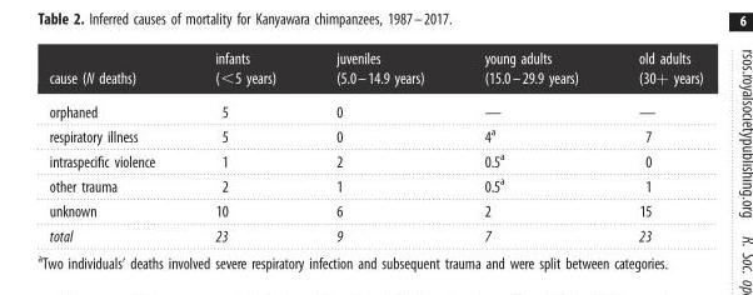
<table><thead><tr><td>cause (N deaths)</td><td>infants (&lt;5 years)</td><td>juveniles (5.0–14.9 years)</td><td>young adults (15.0–29.9 years)</td><td>old adults (30+ years)</td></tr></thead><tbody><tr><td>orphaned</td><td>5</td><td>0</td><td>—</td><td>—</td></tr><tr><td>respiratory illness</td><td>5</td><td>0</td><td>4<sup>a</sup></td><td>7</td></tr><tr><td>intraspecific violence</td><td>1</td><td>2</td><td>0.5<sup>a</sup></td><td>0</td></tr><tr><td>other trauma</td><td>2</td><td>1</td><td>0.5<sup>a</sup></td><td>1</td></tr><tr><td>unknown</td><td>10</td><td>6</td><td>2</td><td>15</td></tr><tr><td>total</td><td>23</td><td>9</td><td>7</td><td>23</td></tr></tbody></table>